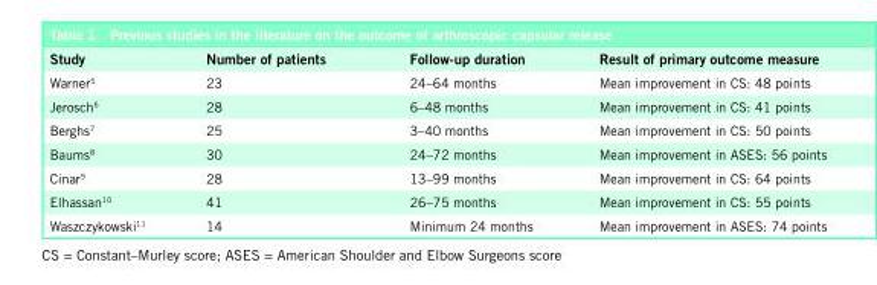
<table><thead><tr><td>Study</td><td>Number of patients</td><td>Follow-up duration</td><td>Result of primary outcome measure</td></tr></thead><tbody><tr><td>Warner<sup>5</sup></td><td>23</td><td>24–64 months</td><td>Mean improvement in CS: 48 points</td></tr><tr><td>Jerosch<sup>6</sup></td><td>28</td><td>6–48 months</td><td>Mean improvement in CS: 41 points</td></tr><tr><td>Berghs<sup>7</sup></td><td>25</td><td>3–40 months</td><td>Mean improvement in CS: 50 points</td></tr><tr><td>Baums<sup>8</sup></td><td>30</td><td>24–72 months</td><td>Mean improvement in ASES: 56 points</td></tr><tr><td>Cinar<sup>9</sup></td><td>28</td><td>13–99 months</td><td>Mean improvement in CS: 64 points</td></tr><tr><td>Elhassan<sup>10</sup></td><td>41</td><td>26–75 months</td><td>Mean improvement in CS: 55 points</td></tr><tr><td>Waszczykowski<sup>11</sup></td><td>14</td><td>Minimum 24 months</td><td>Mean improvement in ASES: 74 points</td></tr></tbody></table>